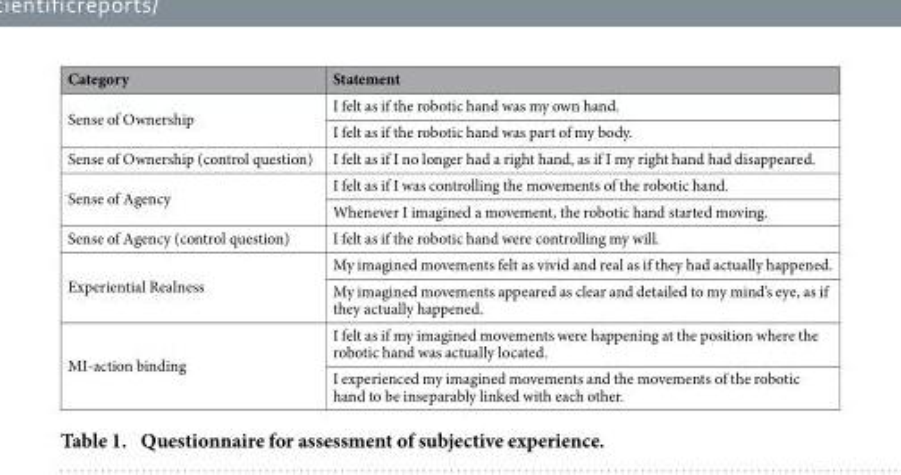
<table><thead><tr><td>Category</td><td>Statement</td></tr></thead><tbody><tr><td rowspan="2">Sense of Ownership</td><td>I felt as if the robotic hand was my own hand.</td></tr><tr><td>I felt as if the robotic hand was part of my body.</td></tr><tr><td>Sense of Ownership (control question)</td><td>I felt as if I no longer had a right hand, as if I my right hand had disappeared.</td></tr><tr><td rowspan="2">Sense of Agency</td><td>I felt as if I was controlling the movements of the robotic hand.</td></tr><tr><td>Whenever I imagined a movement, the robotic hand started moving.</td></tr><tr><td>Sense of Agency (control question)</td><td>I felt as if the robotic hand were controlling my will.</td></tr><tr><td rowspan="2">Experiential Realness</td><td>My imagined movements felt as vivid and real as if they had actually happened.</td></tr><tr><td>My imagined movements appeared as clear and detailed to my mind’s eye, as if they actually happened.</td></tr><tr><td rowspan="2">MI-action binding</td><td>I felt as if my imagined movements were happening at the position where the robotic hand was actually located.</td></tr><tr><td>I experienced my imagined movements and the movements of the robotic hand to be inseparably linked with each other.</td></tr></tbody></table>